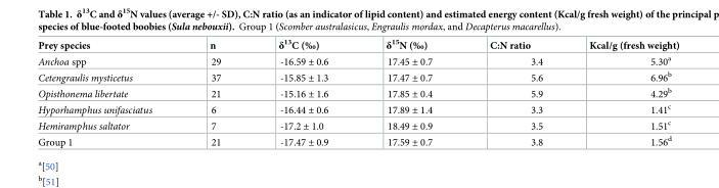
<table><thead><tr><td>Prey species</td><td>n</td><td>δ<sup>13</sup>C (‰)</td><td>δ<sup>15</sup>N (‰)</td><td>C:N ratio</td><td>Kcal/g (fresh weight)</td></tr></thead><tbody><tr><td>Anchoa spp</td><td>29</td><td>-16.59 ± 0.6</td><td>17.45 ± 0.7</td><td>3.4</td><td>5.30<sup>a</sup></td></tr><tr><td>Cetengraulis mysticetus</td><td>37</td><td>-15.85 ± 1.3</td><td>17.47 ± 0.7</td><td>5.6</td><td>6.96<sup>b</sup></td></tr><tr><td>Opisthonema libertate</td><td>21</td><td>-15.16 ± 1.6</td><td>17.85 ± 0.4</td><td>5.9</td><td>4.29<sup>b</sup></td></tr><tr><td>Hyporhamphus unifasciatus</td><td>6</td><td>-16.44 ± 0.6</td><td>17.89 ± 1.4</td><td>3.3</td><td>1.41<sup>c</sup></td></tr><tr><td>Hemiramphus saltator</td><td>7</td><td>-17.2 ± 1.0</td><td>18.49 ± 0.9</td><td>3.5</td><td>1.51<sup>c</sup></td></tr><tr><td>Group 1</td><td>21</td><td>-17.47 ± 0.9</td><td>17.59 ± 0.7</td><td>3.8</td><td>1.56<sup>d</sup></td></tr></tbody></table>